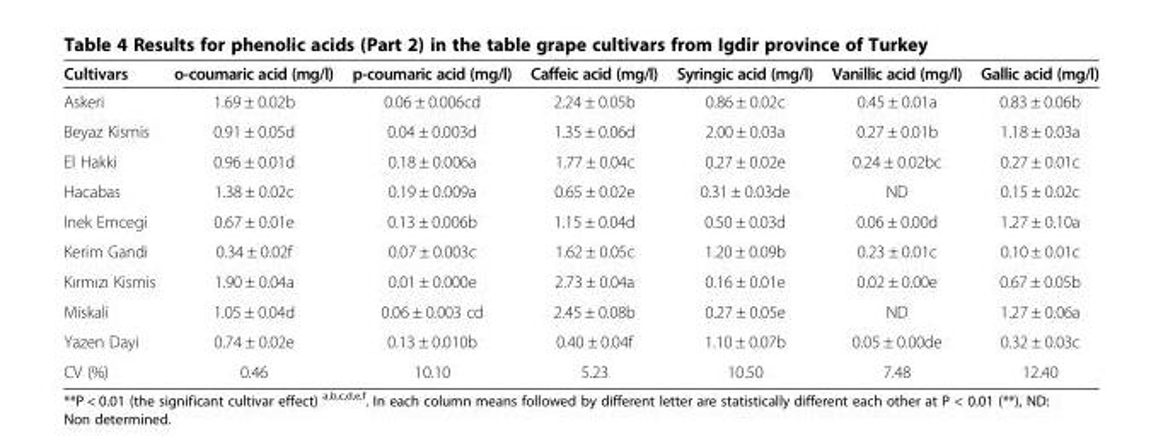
<table><thead><tr><td>Cultivars</td><td>o-coumaric acid (mg/l)</td><td>p-coumaric acid (mg/l)</td><td>Caffeic acid (mg/l)</td><td>Syringic acid (mg/l)</td><td>Vanillic acid (mg/l)</td><td>Gallic acid (mg/l)</td></tr></thead><tbody><tr><td>Askeri</td><td>1.69 ± 0.02b</td><td>0.06 ± 0.006cd</td><td>2.24 ± 0.05b</td><td>0.86 ± 0.02c</td><td>0.45 ± 0.01a</td><td>0.83 ± 0.06b</td></tr><tr><td>Beyaz Kismis</td><td>0.91 ± 0.05d</td><td>0.04 ± 0.003d</td><td>1.35 ± 0.06d</td><td>2.00 ± 0.03a</td><td>0.27 ± 0.01b</td><td>1.18 ± 0.03a</td></tr><tr><td>El Hakki</td><td>0.96 ± 0.01d</td><td>0.18 ± 0.006a</td><td>1.77 ± 0.04c</td><td>0.27 ± 0.02e</td><td>0.24 ± 0.02bc</td><td>0.27 ± 0.01c</td></tr><tr><td>Hacabas</td><td>1.38 ± 0.02c</td><td>0.19 ± 0.009a</td><td>0.65 ± 0.02e</td><td>0.31 ± 0.03de</td><td>ND</td><td>0.15 ± 0.02c</td></tr><tr><td>Inek Emcegi</td><td>0.67 ± 0.01e</td><td>0.13 ± 0.006b</td><td>1.15 ± 0.04d</td><td>0.50 ± 0.03d</td><td>0.06 ± 0.00d</td><td>1.27 ± 0.10a</td></tr><tr><td>Kerim Gandi</td><td>0.34 ± 0.02f</td><td>0.07 ± 0.003c</td><td>1.62 ± 0.05c</td><td>1.20 ± 0.09b</td><td>0.23 ± 0.01c</td><td>0.10 ± 0.01c</td></tr><tr><td>Kırmızı Kismis</td><td>1.90 ± 0.04a</td><td>0.01 ± 0.000e</td><td>2.73 ± 0.04a</td><td>0.16 ± 0.01e</td><td>0.02 ± 0.00e</td><td>0.67 ± 0.05b</td></tr><tr><td>Miskali</td><td>1.05 ± 0.04d</td><td>0.06 ± 0.003 cd</td><td>2.45 ± 0.08b</td><td>0.27 ± 0.05e</td><td>ND</td><td>1.27 ± 0.06a</td></tr><tr><td>Yazen Dayi</td><td>0.74 ± 0.02e</td><td>0.13 ± 0.010b</td><td>0.40 ± 0.04f</td><td>1.10 ± 0.07b</td><td>0.05 ± 0.00de</td><td>0.32 ± 0.03c</td></tr><tr><td>CV (%)</td><td>0.46</td><td>10.10</td><td>5.23</td><td>10.50</td><td>7.48</td><td>12.40</td></tr></tbody></table>